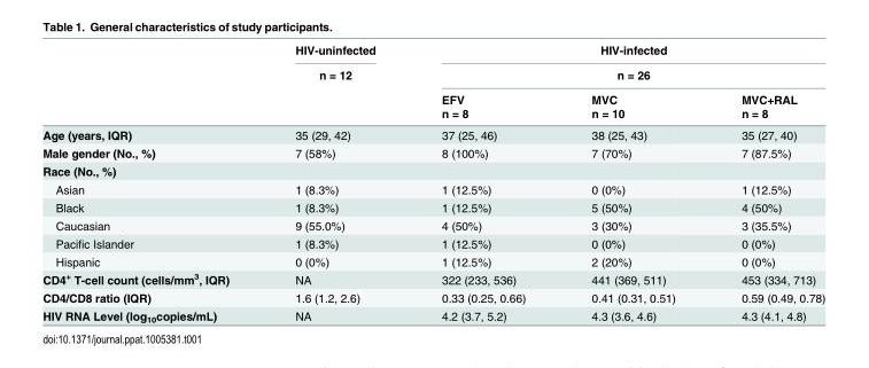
<table><thead><tr><td rowspan="4"></td><td rowspan="4">HIV-uninfected n = 12</td><td rowspan="2" colspan="3">HIV-infected n = 26</td></tr><tr></tr><tr><td rowspan="2">EFV n = 8</td><td rowspan="2">MVC n = 10</td><td rowspan="2">MVC+RAL n = 8</td></tr><tr></tr></thead><tbody><tr><td>Age (years, IQR)</td><td>35 (29, 42)</td><td>37 (25, 46)</td><td>38 (25, 43)</td><td>35 (27, 40)</td></tr><tr><td>Male gender (No., %)</td><td>7 (58%)</td><td>8 (100%)</td><td>7 (70%)</td><td>7 (87.5%)</td></tr><tr><td colspan="5">Race (No., %)</td></tr><tr><td>Asian</td><td>1 (8.3%)</td><td>1 (12.5%)</td><td>0 (0%)</td><td>1 (12.5%)</td></tr><tr><td>Black</td><td>1 (8.3%)</td><td>1 (12.5%)</td><td>5 (50%)</td><td>4 (50%)</td></tr><tr><td>Caucasian</td><td>9 (55.0%)</td><td>4 (50%)</td><td>3 (30%)</td><td>3 (35.5%)</td></tr><tr><td>Pacific Islander</td><td>1 (8.3%)</td><td>1 (12.5%)</td><td>0 (0%)</td><td>0 (0%)</td></tr><tr><td>Hispanic</td><td>0 (0%)</td><td>1 (12.5%)</td><td>2 (20%)</td><td>0 (0%)</td></tr><tr><td>CD4<sup>+</sup> T-cell count (cells/mm<sup>3</sup>, IQR)</td><td>NA</td><td>322 (233, 536)</td><td>441 (369, 511)</td><td>453 (334, 713)</td></tr><tr><td>CD4/CD8 ratio (IQR)</td><td>1.6 (1.2, 2.6)</td><td>0.33 (0.25, 0.66)</td><td>0.41 (0.31, 0.51)</td><td>0.59 (0.49, 0.78)</td></tr><tr><td>HIV RNA Level (log<sub>10</sub>copies/mL)</td><td>NA</td><td>4.2 (3.7, 5.2)</td><td>4.3 (3.6, 4.6)</td><td>4.3 (4.1, 4.8)</td></tr></tbody></table>